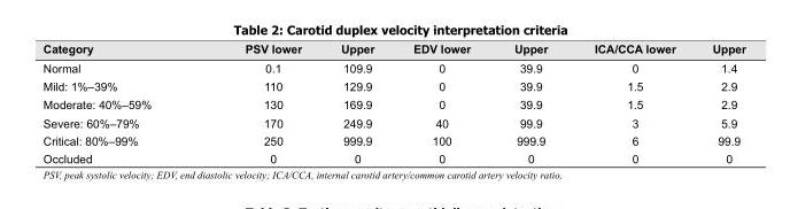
<table><thead><tr><td>Category</td><td>PSV lower</td><td>Upper</td><td>EDV lower</td><td>Upper</td><td>ICA/CCA lower</td><td>Upper</td></tr></thead><tbody><tr><td>Normal</td><td>0.1</td><td>109.9</td><td>0</td><td>39.9</td><td>0</td><td>1.4</td></tr><tr><td>Mild: 1%–39%</td><td>110</td><td>129.9</td><td>0</td><td>39.9</td><td>1.5</td><td>2.9</td></tr><tr><td>Moderate: 40%–59%</td><td>130</td><td>169.9</td><td>0</td><td>39.9</td><td>1.5</td><td>2.9</td></tr><tr><td>Severe: 60%–79%</td><td>170</td><td>249.9</td><td>40</td><td>99.9</td><td>3</td><td>5.9</td></tr><tr><td>Critical: 80%–99%</td><td>250</td><td>999.9</td><td>100</td><td>999.9</td><td>6</td><td>99.9</td></tr><tr><td>Occluded</td><td>0</td><td>0</td><td>0</td><td>0</td><td>0</td><td>0</td></tr></tbody></table>